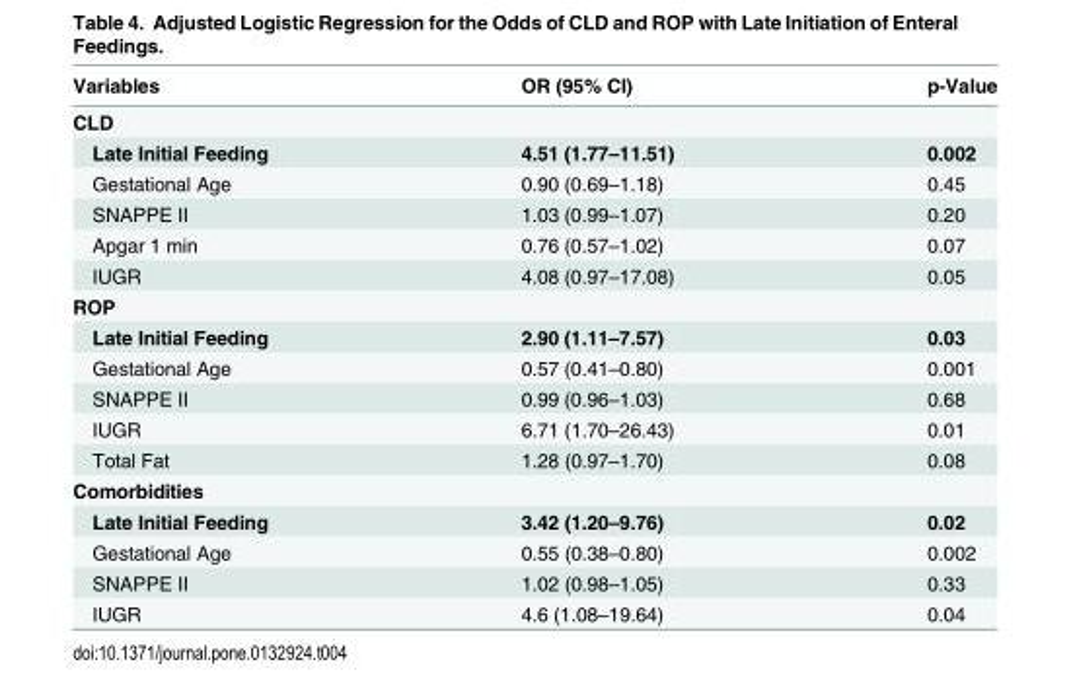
<table><thead><tr><td>Variables</td><td>OR (95% CI)</td><td>p-Value</td></tr></thead><tbody><tr><td colspan="3">CLD</td></tr><tr><td>Late Initial Feeding</td><td>4.51 (1.77–11.51)</td><td>0.002</td></tr><tr><td>Gestational Age</td><td>0.90 (0.69–1.18)</td><td>0.45</td></tr><tr><td>SNAPPE II</td><td>1.03 (0.99–1.07)</td><td>0.20</td></tr><tr><td>Apgar 1 min</td><td>0.76 (0.57–1.02)</td><td>0.07</td></tr><tr><td>IUGR</td><td>4.08 (0.97–17.08)</td><td>0.05</td></tr><tr><td colspan="3">ROP</td></tr><tr><td>Late Initial Feeding</td><td>2.90 (1.11–7.57)</td><td>0.03</td></tr><tr><td>Gestational Age</td><td>0.57 (0.41–0.80)</td><td>0.001</td></tr><tr><td>SNAPPE II</td><td>0.99 (0.96–1.03)</td><td>0.68</td></tr><tr><td>IUGR</td><td>6.71 (1.70–26.43)</td><td>0.01</td></tr><tr><td>Total Fat</td><td>1.28 (0.97–1.70)</td><td>0.08</td></tr><tr><td colspan="3">Comorbidities</td></tr><tr><td>Late Initial Feeding</td><td>3.42 (1.20–9.76)</td><td>0.02</td></tr><tr><td>Gestational Age</td><td>0.55 (0.38–0.80)</td><td>0.002</td></tr><tr><td>SNAPPE II</td><td>1.02 (0.98–1.05)</td><td>0.33</td></tr><tr><td>IUGR</td><td>4.6 (1.08–19.64)</td><td>0.04</td></tr></tbody></table>